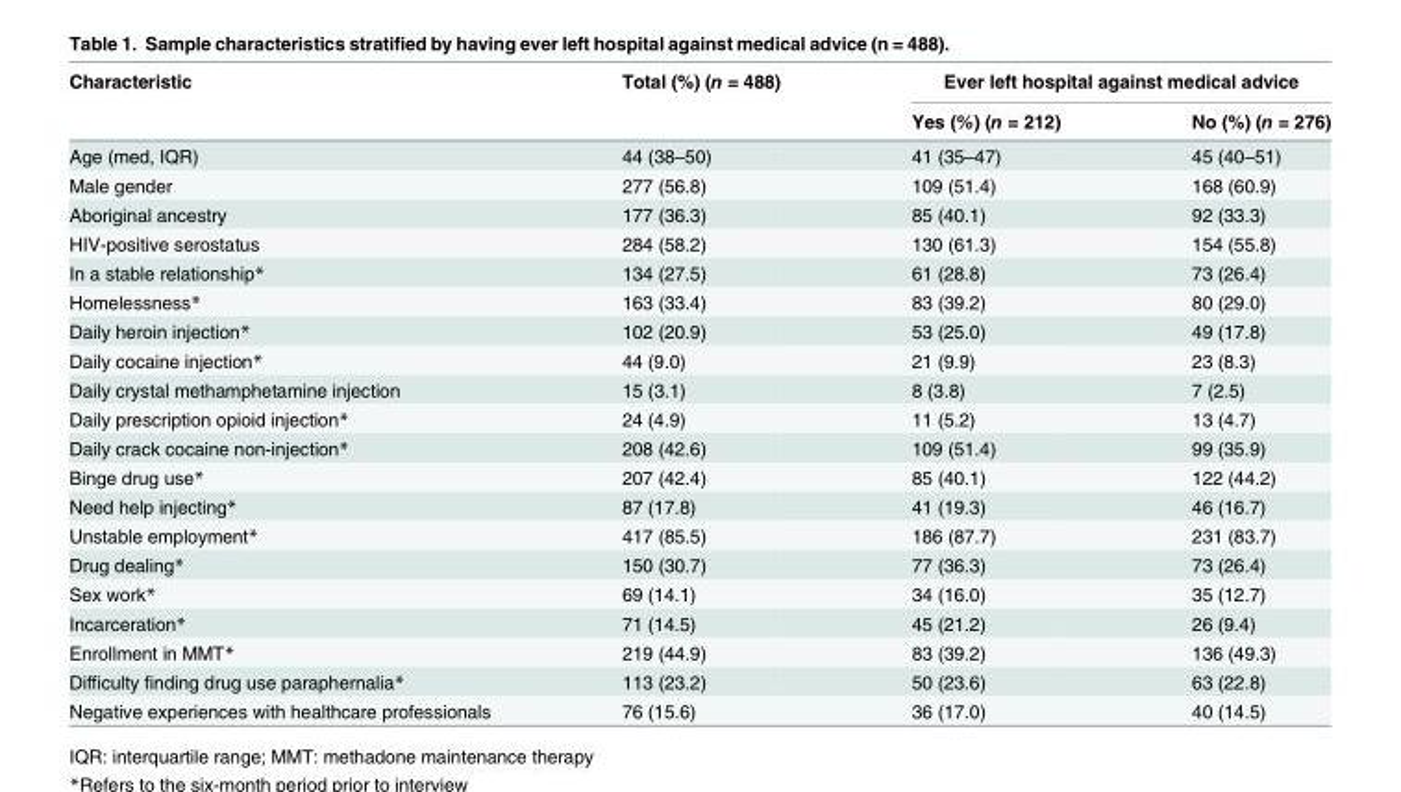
<table><thead><tr><td rowspan="2">Characteristic</td><td rowspan="2">Total (%) (n = 488)</td><td colspan="2">Ever left hospital against medical advice</td></tr><tr><td>Yes (%) (n = 212)</td><td>No (%) (n = 276)</td></tr></thead><tbody><tr><td>Age (med, IQR)</td><td>44 (38–50)</td><td>41 (35–47)</td><td>45 (40–51)</td></tr><tr><td>Male gender</td><td>277 (56.8)</td><td>109 (51.4)</td><td>168 (60.9)</td></tr><tr><td>Aboriginal ancestry</td><td>177 (36.3)</td><td>85 (40.1)</td><td>92 (33.3)</td></tr><tr><td>HIV-positive serostatus</td><td>284 (58.2)</td><td>130 (61.3)</td><td>154 (55.8)</td></tr><tr><td>In a stable relationship*</td><td>134 (27.5)</td><td>61 (28.8)</td><td>73 (26.4)</td></tr><tr><td>Homelessness*</td><td>163 (33.4)</td><td>83 (39.2)</td><td>80 (29.0)</td></tr><tr><td>Daily heroin injection*</td><td>102 (20.9)</td><td>53 (25.0)</td><td>49 (17.8)</td></tr><tr><td>Daily cocaine injection*</td><td>44 (9.0)</td><td>21 (9.9)</td><td>23 (8.3)</td></tr><tr><td>Daily crystal methamphetamine injection</td><td>15 (3.1)</td><td>8 (3.8)</td><td>7 (2.5)</td></tr><tr><td>Daily prescription opioid injection*</td><td>24 (4.9)</td><td>11 (5.2)</td><td>13 (4.7)</td></tr><tr><td>Daily crack cocaine non-injection*</td><td>208 (42.6)</td><td>109 (51.4)</td><td>99 (35.9)</td></tr><tr><td>Binge drug use*</td><td>207 (42.4)</td><td>85 (40.1)</td><td>122 (44.2)</td></tr><tr><td>Need help injecting*</td><td>87 (17.8)</td><td>41 (19.3)</td><td>46 (16.7)</td></tr><tr><td>Unstable employment*</td><td>417 (85.5)</td><td>186 (87.7)</td><td>231 (83.7)</td></tr><tr><td>Drug dealing*</td><td>150 (30.7)</td><td>77 (36.3)</td><td>73 (26.4)</td></tr><tr><td>Sex work*</td><td>69 (14.1)</td><td>34 (16.0)</td><td>35 (12.7)</td></tr><tr><td>Incarceration*</td><td>71 (14.5)</td><td>45 (21.2)</td><td>26 (9.4)</td></tr><tr><td>Enrollment in MMT*</td><td>219 (44.9)</td><td>83 (39.2)</td><td>136 (49.3)</td></tr><tr><td>Difficulty finding drug use paraphernalia*</td><td>113 (23.2)</td><td>50 (23.6)</td><td>63 (22.8)</td></tr><tr><td>Negative experiences with healthcare professionals</td><td>76 (15.6)</td><td>36 (17.0)</td><td>40 (14.5)</td></tr></tbody></table>